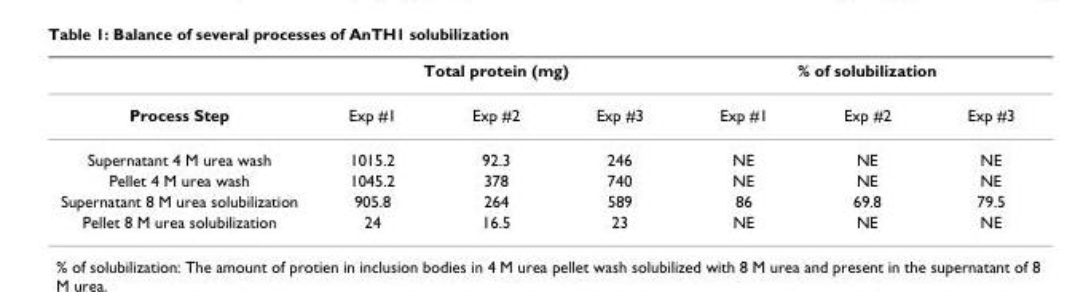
<table><thead><tr><td rowspan="2">Process Step</td><td colspan="3">Total protein (mg)</td><td colspan="3">% of solubilization</td></tr><tr><td>Exp #1</td><td>Exp #2</td><td>Exp #3</td><td>Exp #1</td><td>Exp #2</td><td>Exp #3</td></tr></thead><tbody><tr><td>Supernatant 4 M urea wash</td><td>1015.2</td><td>92.3</td><td>246</td><td>NE</td><td>NE</td><td>NE</td></tr><tr><td>Pellet 4 M urea wash</td><td>1045.2</td><td>378</td><td>740</td><td>NE</td><td>NE</td><td>NE</td></tr><tr><td>Supernatant 8 M urea solubilization</td><td>905.8</td><td>264</td><td>589</td><td>86</td><td>69.8</td><td>79.5</td></tr><tr><td>Pellet 8 M urea solubilization</td><td>24</td><td>16.5</td><td>23</td><td>NE</td><td>NE</td><td>NE</td></tr></tbody></table>